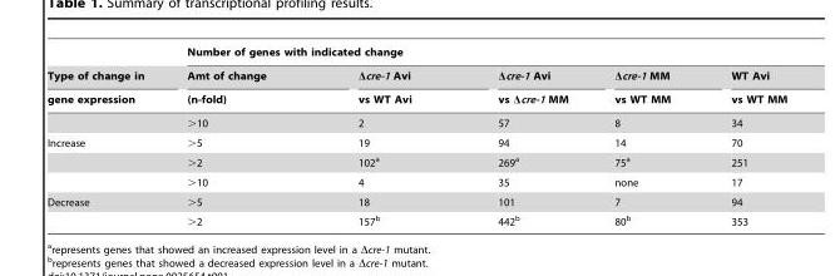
<table><thead><tr><td rowspan="3">Type of change in gene expression</td><td colspan="5">Number of genes with indicated change</td></tr><tr><td rowspan="2">Amt of change (n-fold)</td><td rowspan="2">Δcre-1 Avi vs WT Avi</td><td rowspan="2">Δcre-1 Avi vs Δcre-1 MM</td><td rowspan="2">Δcre-1 MM vs WT MM</td><td rowspan="2">WT Avi vs WT MM</td></tr><tr></tr></thead><tbody><tr><td></td><td>&gt;10</td><td>2</td><td>57</td><td>8</td><td>34</td></tr><tr><td rowspan="3">Increase</td><td>&gt;5</td><td>19</td><td>94</td><td>14</td><td>70</td></tr><tr><td>&gt;2</td><td>102<sup>a</sup></td><td>269<sup>a</sup></td><td>75<sup>a</sup></td><td>251</td></tr><tr><td>&gt;10</td><td>4</td><td>35</td><td>none</td><td>17</td></tr><tr><td rowspan="2">Decrease</td><td>&gt;5</td><td>18</td><td>101</td><td>7</td><td>94</td></tr><tr><td>&gt;2</td><td>157<sup>b</sup></td><td>442<sup>b</sup></td><td>80<sup>b</sup></td><td>353</td></tr></tbody></table>